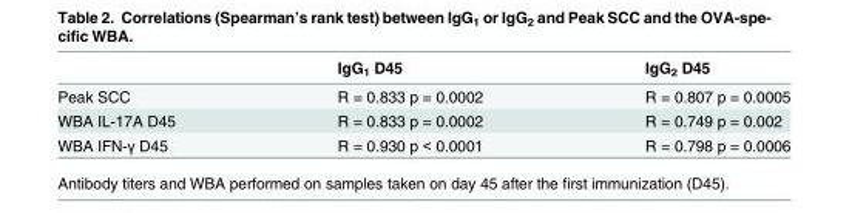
<table><thead><tr><td></td><td>IgG<sub>1</sub> D45</td><td>IgG<sub>2</sub> D45</td></tr></thead><tbody><tr><td>Peak SCC</td><td>R = 0.833 p = 0.0002</td><td>R = 0.807 p = 0.0005</td></tr><tr><td>WBA IL-17A D45</td><td>R = 0.833 p = 0.0002</td><td>R = 0.749 p = 0.002</td></tr><tr><td>WBA IFN-γ D45</td><td>R = 0.930 p &lt; 0.0001</td><td>R = 0.798 p = 0.0006</td></tr></tbody></table>